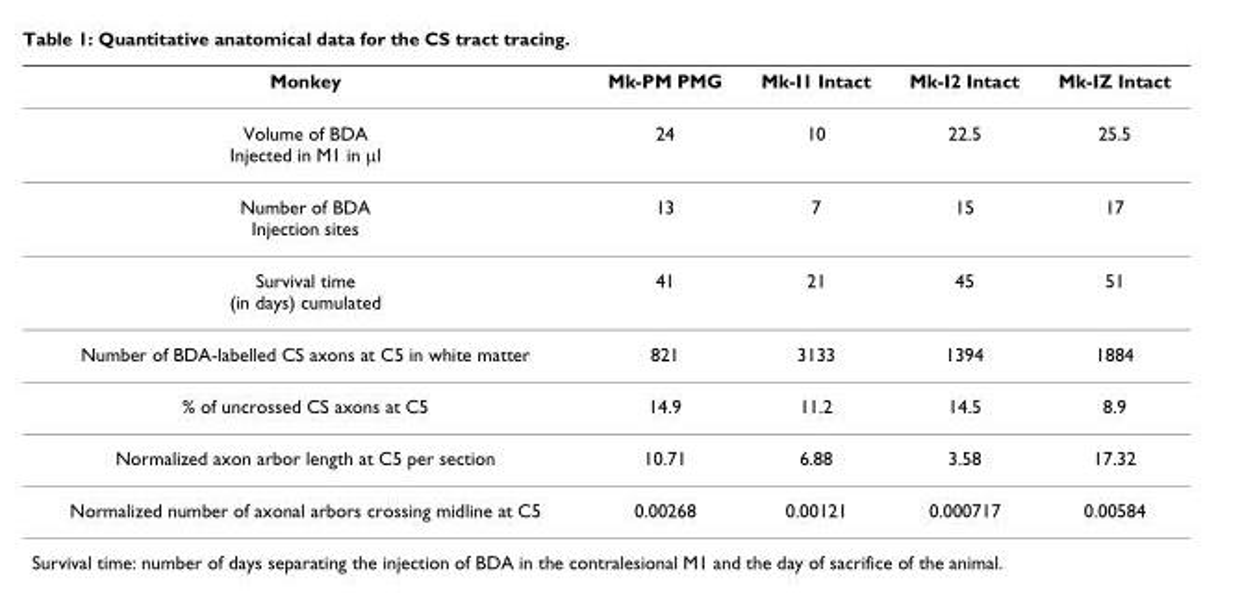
<table><thead><tr><td>Monkey</td><td>Mk-PM PMG</td><td>Mk-I1 Intact</td><td>Mk-I2 Intact</td><td>Mk-IZ Intact</td></tr></thead><tbody><tr><td>Volume of BDA Injected in M1 in μl</td><td>24</td><td>10</td><td>22.5</td><td>25.5</td></tr><tr><td>Number of BDA Injection sites</td><td>13</td><td>7</td><td>15</td><td>17</td></tr><tr><td>Survival time (in days) cumulated</td><td>41</td><td>21</td><td>45</td><td>51</td></tr><tr><td>Number of BDA-labelled CS axons at C5 in white matter</td><td>821</td><td>3133</td><td>1394</td><td>1884</td></tr><tr><td>% of uncrossed CS axons at C5</td><td>14.9</td><td>11.2</td><td>14.5</td><td>8.9</td></tr><tr><td>Normalized axon arbor length at C5 per section</td><td>10.71</td><td>6.88</td><td>3.58</td><td>17.32</td></tr><tr><td>Normalized number of axonal arbors crossing midline at C5</td><td>0.00268</td><td>0.00121</td><td>0.000717</td><td>0.00584</td></tr></tbody></table>